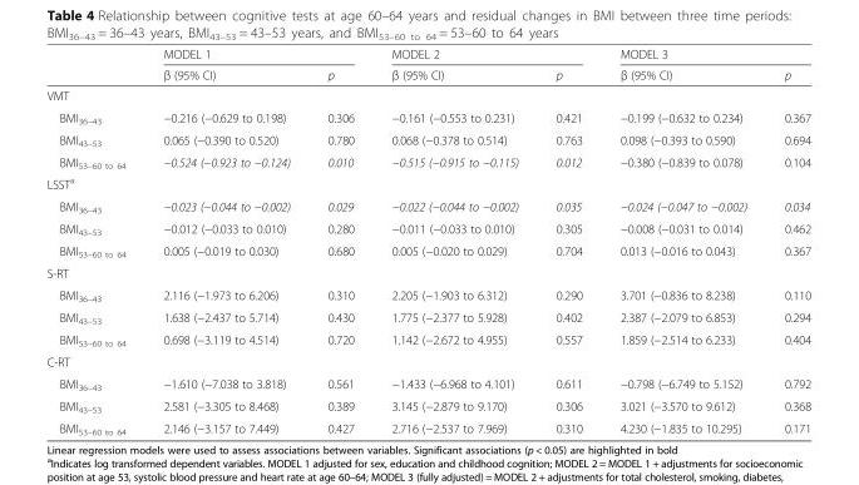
<table><thead><tr><td rowspan="2"></td><td colspan="2">MODEL 1</td><td colspan="2">MODEL 2</td><td colspan="2">MODEL 3</td></tr><tr><td>β (95% CI)</td><td>p</td><td>β (95% CI)</td><td>p</td><td>β (95% CI)</td><td>p</td></tr></thead><tbody><tr><td colspan="7">VMT</td></tr><tr><td>BMI<sub>36–43</sub></td><td>−0.216 (−0.629 to 0.198)</td><td>0.306</td><td>−0.161 (−0.553 to 0.231)</td><td>0.421</td><td>−0.199 (−0.632 to 0.234)</td><td>0.367</td></tr><tr><td>BMI<sub>43–53</sub></td><td>0.065 (−0.390 to 0.520)</td><td>0.780</td><td>0.068 (−0.378 to 0.514)</td><td>0.763</td><td>0.098 (−0.393 to 0.590)</td><td>0.694</td></tr><tr><td>BMI<sub>53–60 to 64</sub></td><td>−0.524 (−0.923 to −0.124)</td><td>0.010</td><td>−0.515 (−0.915 to −0.115)</td><td>0.012</td><td>−0.380 (−0.839 to 0.078)</td><td>0.104</td></tr><tr><td colspan="7">LSST<sup>a</sup></td></tr><tr><td>BMI<sub>36–43</sub></td><td>−0.023 (−0.044 to −0.002)</td><td>0.029</td><td>−0.022 (−0.044 to −0.002)</td><td>0.035</td><td>−0.024 (−0.047 to −0.002)</td><td>0.034</td></tr><tr><td>BMI<sub>43–53</sub></td><td>−0.012 (−0.033 to 0.010)</td><td>0.280</td><td>−0.011 (−0.033 to 0.010)</td><td>0.305</td><td>−0.008 (−0.031 to 0.014)</td><td>0.462</td></tr><tr><td>BMI<sub>53–60 to 64</sub></td><td>0.005 (−0.019 to 0.030)</td><td>0.680</td><td>0.005 (−0.020 to 0.029)</td><td>0.704</td><td>0.013 (−0.016 to 0.043)</td><td>0.367</td></tr><tr><td colspan="7">S-RT</td></tr><tr><td>BMI<sub>36–43</sub></td><td>2.116 (−1.973 to 6.206)</td><td>0.310</td><td>2.205 (−1.903 to 6.312)</td><td>0.290</td><td>3.701 (−0.836 to 8.238)</td><td>0.110</td></tr><tr><td>BMI<sub>43–53</sub></td><td>1.638 (−2.437 to 5.714)</td><td>0.430</td><td>1.775 (−2.377 to 5.928)</td><td>0.402</td><td>2.387 (−2.079 to 6.853)</td><td>0.294</td></tr><tr><td>BMI<sub>53–60 to 64</sub></td><td>0.698 (−3.119 to 4.514)</td><td>0.720</td><td>1.142 (−2.672 to 4.955)</td><td>0.557</td><td>1.859 (−2.514 to 6.233)</td><td>0.404</td></tr><tr><td colspan="7">C-RT</td></tr><tr><td>BMI<sub>36–43</sub></td><td>−1.610 (−7.038 to 3.818)</td><td>0.561</td><td>−1.433 (−6.968 to 4.101)</td><td>0.611</td><td>−0.798 (−6.749 to 5.152)</td><td>0.792</td></tr><tr><td>BMI<sub>43–53</sub></td><td>2.581 (−3.305 to 8.468)</td><td>0.389</td><td>3.145 (−2.879 to 9.170)</td><td>0.306</td><td>3.021 (−3.570 to 9.612)</td><td>0.368</td></tr><tr><td>BMI<sub>53–60 to 64</sub></td><td>2.146 (−3.157 to 7.449)</td><td>0.427</td><td>2.716 (−2.537 to 7.969)</td><td>0.310</td><td>4.230 (−1.835 to 10.295)</td><td>0.171</td></tr></tbody></table>